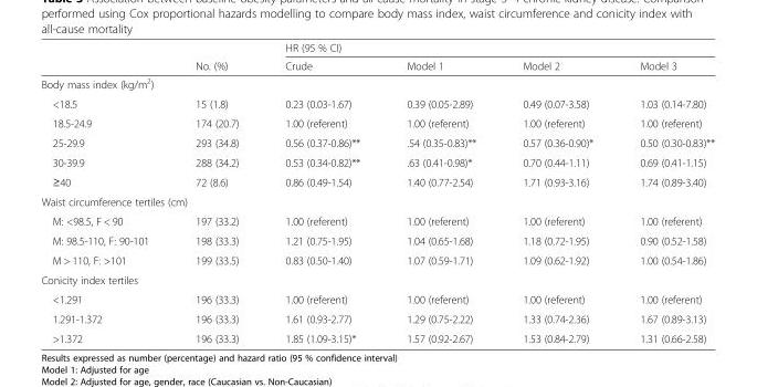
<table><thead><tr><td rowspan="2"></td><td rowspan="2">No. (%)</td><td colspan="4">HR (95 % CI)</td></tr><tr><td>Crude</td><td>Model 1</td><td>Model 2</td><td>Model 3</td></tr></thead><tbody><tr><td colspan="6">Body mass index (kg/m<sup>2</sup>)</td></tr><tr><td>&lt;18.5</td><td>15 (1.8)</td><td>0.23 (0.03-1.67)</td><td>0.39 (0.05-2.89)</td><td>0.49 (0.07-3.58)</td><td>1.03 (0.14-7.80)</td></tr><tr><td>18.5-24.9</td><td>174 (20.7)</td><td>1.00 (referent)</td><td>1.00 (referent)</td><td>1.00 (referent)</td><td>1.00 (referent)</td></tr><tr><td>25-29.9</td><td>293 (34.8)</td><td>0.56 (0.37-0.86)**</td><td>.54 (0.35-0.83)**</td><td>0.57 (0.36-0.90)*</td><td>0.50 (0.30-0.83)**</td></tr><tr><td>30-39.9</td><td>288 (34.2)</td><td>0.53 (0.34-0.82)**</td><td>.63 (0.41-0.98)*</td><td>0.70 (0.44-1.11)</td><td>0.69 (0.41-1.15)</td></tr><tr><td>≥40</td><td>72 (8.6)</td><td>0.86 (0.49-1.54)</td><td>1.40 (0.77-2.54)</td><td>1.71 (0.93-3.16)</td><td>1.74 (0.89-3.40)</td></tr><tr><td colspan="6">Waist circumference tertiles (cm)</td></tr><tr><td>M: &lt;98.5, F &lt; 90</td><td>197 (33.2)</td><td>1.00 (referent)</td><td>1.00 (referent)</td><td>1.00 (referent)</td><td>1.00 (referent)</td></tr><tr><td>M: 98.5-110, F: 90-101</td><td>198 (33.3)</td><td>1.21 (0.75-1.95)</td><td>1.04 (0.65-1.68)</td><td>1.18 (0.72-1.95)</td><td>0.90 (0.52-1.58)</td></tr><tr><td>M &gt; 110, F: &gt;101</td><td>199 (33.5)</td><td>0.83 (0.50-1.40)</td><td>1.07 (0.59-1.71)</td><td>1.09 (0.62-1.92)</td><td>1.00 (0.54-1.86)</td></tr><tr><td colspan="6">Conicity index tertiles</td></tr><tr><td>&lt;1.291</td><td>196 (33.3)</td><td>1.00 (referent)</td><td>1.00 (referent)</td><td>1.00 (referent)</td><td>1.00 (referent)</td></tr><tr><td>1.291-1.372</td><td>196 (33.3)</td><td>1.61 (0.93-2.77)</td><td>1.29 (0.75-2.22)</td><td>1.33 (0.74-2.36)</td><td>1.67 (0.89-3.13)</td></tr><tr><td>&gt;1.372</td><td>196 (33.3)</td><td>1.85 (1.09-3.15)*</td><td>1.57 (0.92-2.67)</td><td>1.53 (0.84-2.79)</td><td>1.31 (0.66-2.58)</td></tr></tbody></table>